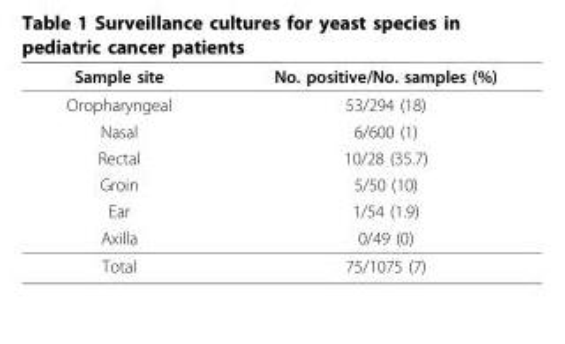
<table><thead><tr><td>Sample site</td><td>No. positive/No. samples (%)</td></tr></thead><tbody><tr><td>Oropharyngeal</td><td>53/294 (18)</td></tr><tr><td>Nasal</td><td>6/600 (1)</td></tr><tr><td>Rectal</td><td>10/28 (35.7)</td></tr><tr><td>Groin</td><td>5/50 (10)</td></tr><tr><td>Ear</td><td>1/54 (1.9)</td></tr><tr><td>Axilla</td><td>0/49 (0)</td></tr><tr><td>Total</td><td>75/1075 (7)</td></tr></tbody></table>